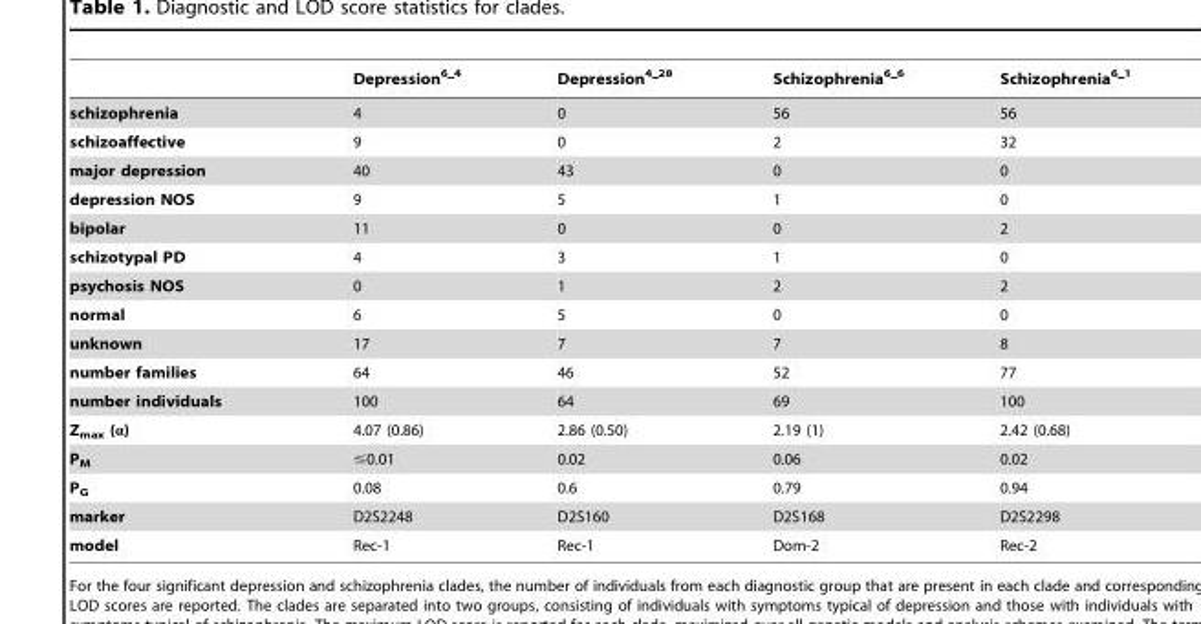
<table><thead><tr><td></td><td>Depression6__4</td><td>Depression4__28</td><td>Schizophrenia6__6</td><td>Schizophrenia6__1</td></tr></thead><tbody><tr><td>schizophrenia</td><td>4</td><td>0</td><td>56</td><td>56</td></tr><tr><td>schizoaffective</td><td>9</td><td>0</td><td>2</td><td>32</td></tr><tr><td>major depression</td><td>40</td><td>43</td><td>0</td><td>0</td></tr><tr><td>depression NOS</td><td>9</td><td>5</td><td>1</td><td>0</td></tr><tr><td>bipolar</td><td>11</td><td>0</td><td>0</td><td>2</td></tr><tr><td>schizotypal PD</td><td>4</td><td>3</td><td>1</td><td>0</td></tr><tr><td>psychosis NOS</td><td>0</td><td>1</td><td>2</td><td>2</td></tr><tr><td>normal</td><td>6</td><td>5</td><td>0</td><td>0</td></tr><tr><td>unknown</td><td>17</td><td>7</td><td>7</td><td>8</td></tr><tr><td>number families</td><td>64</td><td>46</td><td>52</td><td>77</td></tr><tr><td>number individuals</td><td>100</td><td>64</td><td>69</td><td>100</td></tr><tr><td>Z<sub>max</sub> (α)</td><td>4.07 (0.86)</td><td>2.86 (0.50)</td><td>2.19 (1)</td><td>2.42 (0.68)</td></tr><tr><td>P<sub>M</sub></td><td>≤0.01</td><td>0.02</td><td>0.06</td><td>0.02</td></tr><tr><td>P<sub>G</sub></td><td>0.08</td><td>0.6</td><td>0.79</td><td>0.94</td></tr><tr><td>marker</td><td>D2S2248</td><td>D2S160</td><td>D2S168</td><td>D2S2298</td></tr><tr><td>model</td><td>Rec-1</td><td>Rec-1</td><td>Dom-2</td><td>Rec-2</td></tr></tbody></table>